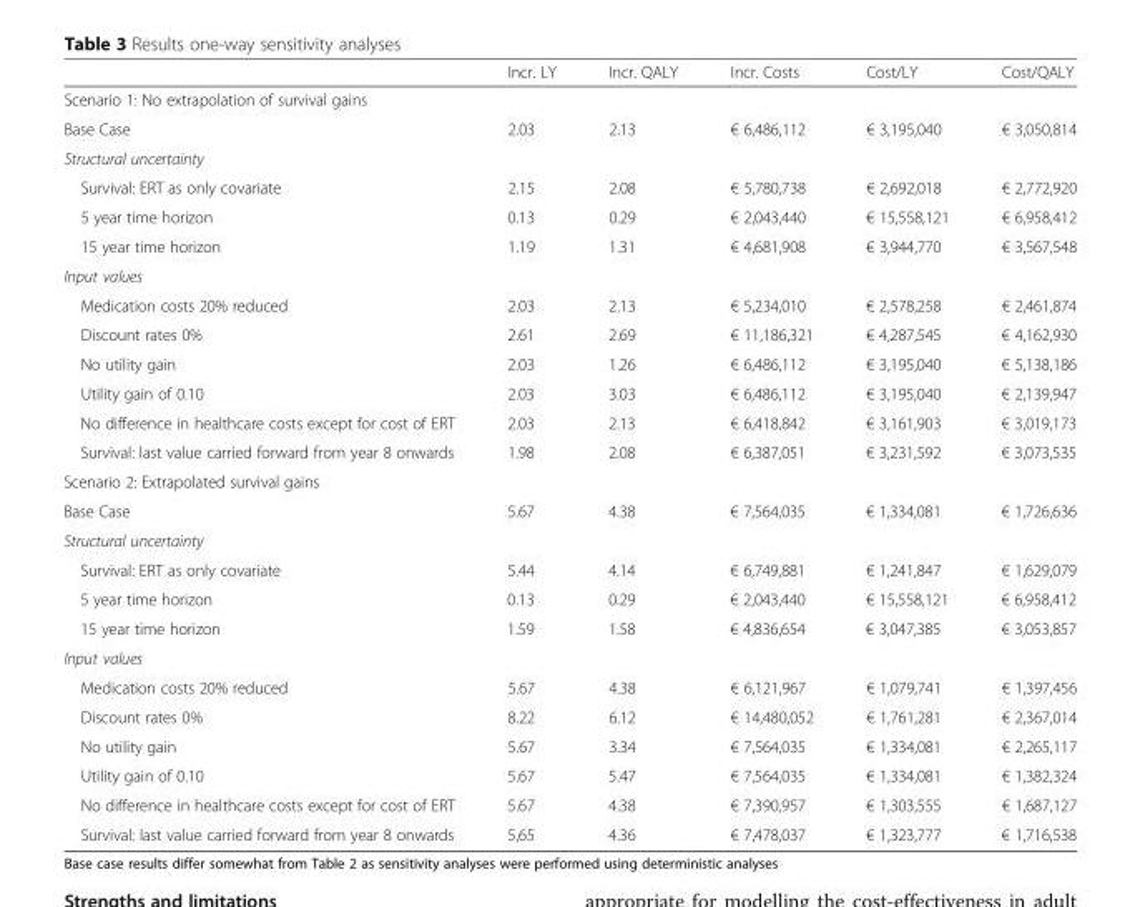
<table><thead><tr><td></td><td>Incr. LY</td><td>Incr. QALY</td><td>Incr. Costs</td><td>Cost/LY</td><td>Cost/QALY</td></tr></thead><tbody><tr><td colspan="6">Scenario 1: No extrapolation of survival gains</td></tr><tr><td>Base Case</td><td>2.03</td><td>2.13</td><td>€ 6,486,112</td><td>€ 3,195,040</td><td>€ 3,050,814</td></tr><tr><td colspan="6">Structural uncertainty</td></tr><tr><td>Survival: ERT as only covariate</td><td>2.15</td><td>2.08</td><td>€ 5,780,738</td><td>€ 2,692,018</td><td>€ 2,772,920</td></tr><tr><td>5 year time horizon</td><td>0.13</td><td>0.29</td><td>€ 2,043,440</td><td>€ 15,558,121</td><td>€ 6,958,412</td></tr><tr><td>15 year time horizon</td><td>1.19</td><td>1.31</td><td>€ 4,681,908</td><td>€ 3,944,770</td><td>€ 3,567,548</td></tr><tr><td colspan="6">Input values</td></tr><tr><td>Medication costs 20% reduced</td><td>2.03</td><td>2.13</td><td>€ 5,234,010</td><td>€ 2,578,258</td><td>€ 2,461,874</td></tr><tr><td>Discount rates 0%</td><td>2.61</td><td>2.69</td><td>€ 11,186,321</td><td>€ 4,287,545</td><td>€ 4,162,930</td></tr><tr><td>No utility gain</td><td>2.03</td><td>1.26</td><td>€ 6,486,112</td><td>€ 3,195,040</td><td>€ 5,138,186</td></tr><tr><td>Utility gain of 0.10</td><td>2.03</td><td>3.03</td><td>€ 6,486,112</td><td>€ 3,195,040</td><td>€ 2,139,947</td></tr><tr><td>No difference in healthcare costs except for cost of ERT</td><td>2.03</td><td>2.13</td><td>€ 6,418,842</td><td>€ 3,161,903</td><td>€ 3,019,173</td></tr><tr><td>Survival: last value carried forward from year 8 onwards</td><td>1.98</td><td>2.08</td><td>€ 6,387,051</td><td>€ 3,231,592</td><td>€ 3,073,535</td></tr><tr><td colspan="6">Scenario 2: Extrapolated survival gains</td></tr><tr><td>Base Case</td><td>5.67</td><td>4.38</td><td>€ 7,564,035</td><td>€ 1,334,081</td><td>€ 1,726,636</td></tr><tr><td colspan="6">Structural uncertainty</td></tr><tr><td>Survival: ERT as only covariate</td><td>5.44</td><td>4.14</td><td>€ 6,749,881</td><td>€ 1,241,847</td><td>€ 1,629,079</td></tr><tr><td>5 year time horizon</td><td>0.13</td><td>0.29</td><td>€ 2,043,440</td><td>€ 15,558,121</td><td>€ 6,958,412</td></tr><tr><td>15 year time horizon</td><td>1.59</td><td>1.58</td><td>€ 4,836,654</td><td>€ 3,047,385</td><td>€ 3,053,857</td></tr><tr><td colspan="6">Input values</td></tr><tr><td>Medication costs 20% reduced</td><td>5.67</td><td>4.38</td><td>€ 6,121,967</td><td>€ 1,079,741</td><td>€ 1,397,456</td></tr><tr><td>Discount rates 0%</td><td>8.22</td><td>6.12</td><td>€ 14,480,052</td><td>€ 1,761,281</td><td>€ 2,367,014</td></tr><tr><td>No utility gain</td><td>5.67</td><td>3.34</td><td>€ 7,564,035</td><td>€ 1,334,081</td><td>€ 2,265,117</td></tr><tr><td>Utility gain of 0.10</td><td>5.67</td><td>5.47</td><td>€ 7,564,035</td><td>€ 1,334,081</td><td>€ 1,382,324</td></tr><tr><td>No difference in healthcare costs except for cost of ERT</td><td>5.67</td><td>4.38</td><td>€ 7,390,957</td><td>€ 1,303,555</td><td>€ 1,687,127</td></tr><tr><td>Survival: last value carried forward from year 8 onwards</td><td>5,65</td><td>4.36</td><td>€ 7,478,037</td><td>€ 1,323,777</td><td>€ 1,716,538</td></tr></tbody></table>